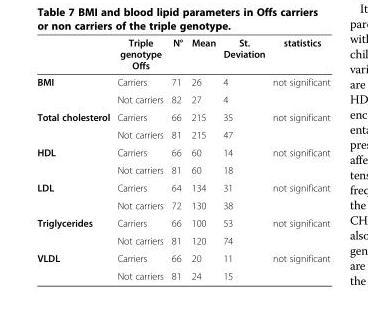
<table><thead><tr><td></td><td>Triple genotype Offs</td><td>N°</td><td>Mean</td><td>St. Deviation</td><td>statistics</td></tr></thead><tbody><tr><td rowspan="2">BMI</td><td>Carriers</td><td>71</td><td>26</td><td>4</td><td rowspan="2">not significant</td></tr><tr><td>Not carriers</td><td>82</td><td>27</td><td>4</td></tr><tr><td rowspan="2">Total cholesterol</td><td>Carriers</td><td>66</td><td>215</td><td>35</td><td rowspan="2">not significant</td></tr><tr><td>Not carriers</td><td>81</td><td>215</td><td>47</td></tr><tr><td rowspan="2">HDL</td><td>Carriers</td><td>66</td><td>60</td><td>14</td><td rowspan="2">not significant</td></tr><tr><td>Not carriers</td><td>81</td><td>60</td><td>18</td></tr><tr><td rowspan="2">LDL</td><td>Carriers</td><td>64</td><td>134</td><td>31</td><td rowspan="2">not significant</td></tr><tr><td>Not carriers</td><td>72</td><td>130</td><td>38</td></tr><tr><td rowspan="2">Triglycerides</td><td>Carriers</td><td>66</td><td>100</td><td>53</td><td rowspan="2">not significant</td></tr><tr><td>Not carriers</td><td>81</td><td>120</td><td>74</td></tr><tr><td rowspan="2">VLDL</td><td>Carriers</td><td>66</td><td>20</td><td>11</td><td rowspan="2">not significant</td></tr><tr><td>Not carriers</td><td>81</td><td>24</td><td>15</td></tr></tbody></table>